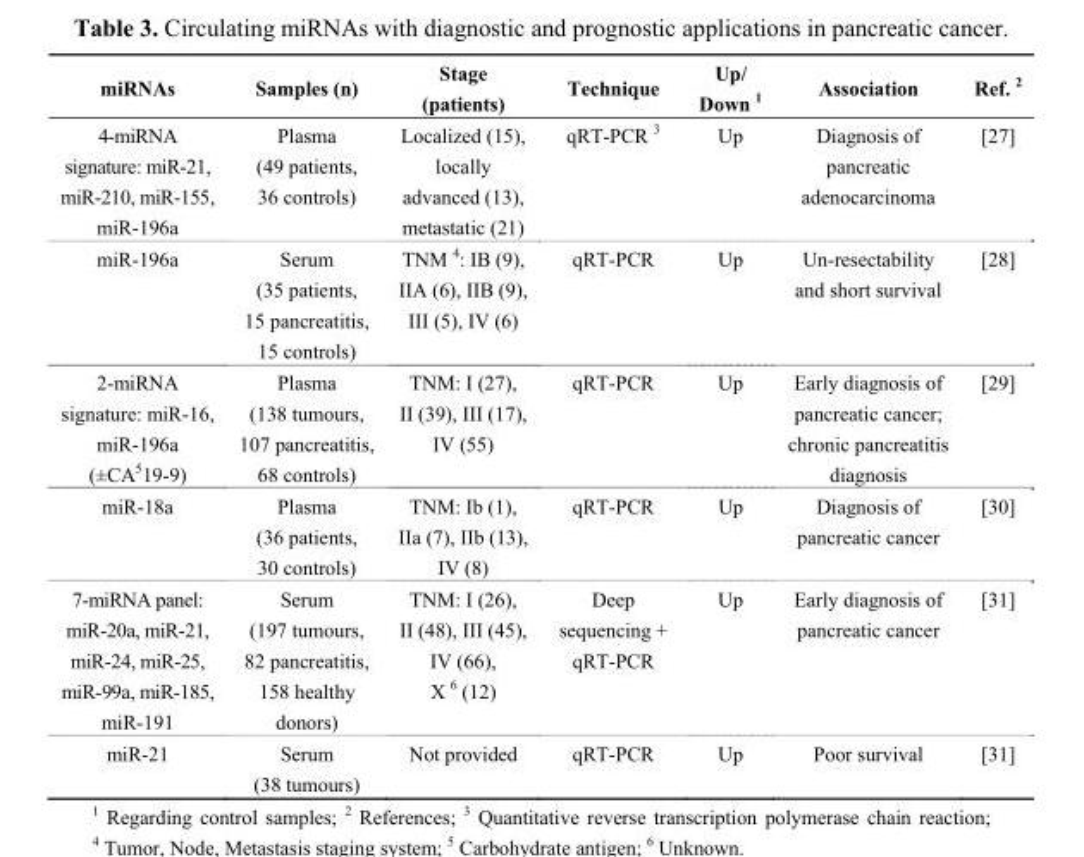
<table><thead><tr><td>miRNAs</td><td>Samples (n)</td><td>Stage (patients)</td><td>Technique</td><td>Up/ Down <sup>1</sup></td><td>Association</td><td>Ref. <sup>2</sup></td></tr></thead><tbody><tr><td>4-miRNA signature: miR-21, miR-210, miR-155, miR-196a</td><td>Plasma (49 patients, 36 controls)</td><td>Localized (15), locally advanced (13), metastatic (21)</td><td>qRT-PCR <sup>3</sup></td><td>Up</td><td>Diagnosis of pancreatic adenocarcinoma</td><td>[27]</td></tr><tr><td>miR-196a</td><td>Serum (35 patients, 15 pancreatitis, 15 controls)</td><td>TNM <sup>4</sup>: IB (9), IIA (6), IIB (9), III (5), IV (6)</td><td>qRT-PCR</td><td>Up</td><td>Un-resectability and short survival</td><td>[28]</td></tr><tr><td>2-miRNA signature: miR-16, miR-196a (±CA<sup>5</sup>19-9)</td><td>Plasma (138 tumours, 107 pancreatitis, 68 controls)</td><td>TNM: I (27), II (39), III (17), IV (55)</td><td>qRT-PCR</td><td>Up</td><td>Early diagnosis of pancreatic cancer; chronic pancreatitis diagnosis</td><td>[29]</td></tr><tr><td>miR-18a</td><td>Plasma (36 patients, 30 controls)</td><td>TNM: Ib (1), IIa (7), IIb (13), IV (8)</td><td>qRT-PCR</td><td>Up</td><td>Diagnosis of pancreatic cancer</td><td>[30]</td></tr><tr><td>7-miRNA panel: miR-20a, miR-21, miR-24, miR-25, miR-99a, miR-185, miR-191</td><td>Serum (197 tumours, 82 pancreatitis, 158 healthy donors)</td><td>TNM: I (26), II (48), III (45), IV (66), X <sup>6</sup> (12)</td><td>Deep sequencing + qRT-PCR</td><td>Up</td><td>Early diagnosis of pancreatic cancer</td><td>[31]</td></tr><tr><td>miR-21</td><td>Serum (38 tumours)</td><td>Not provided</td><td>qRT-PCR</td><td>Up</td><td>Poor survival</td><td>[31]</td></tr></tbody></table>